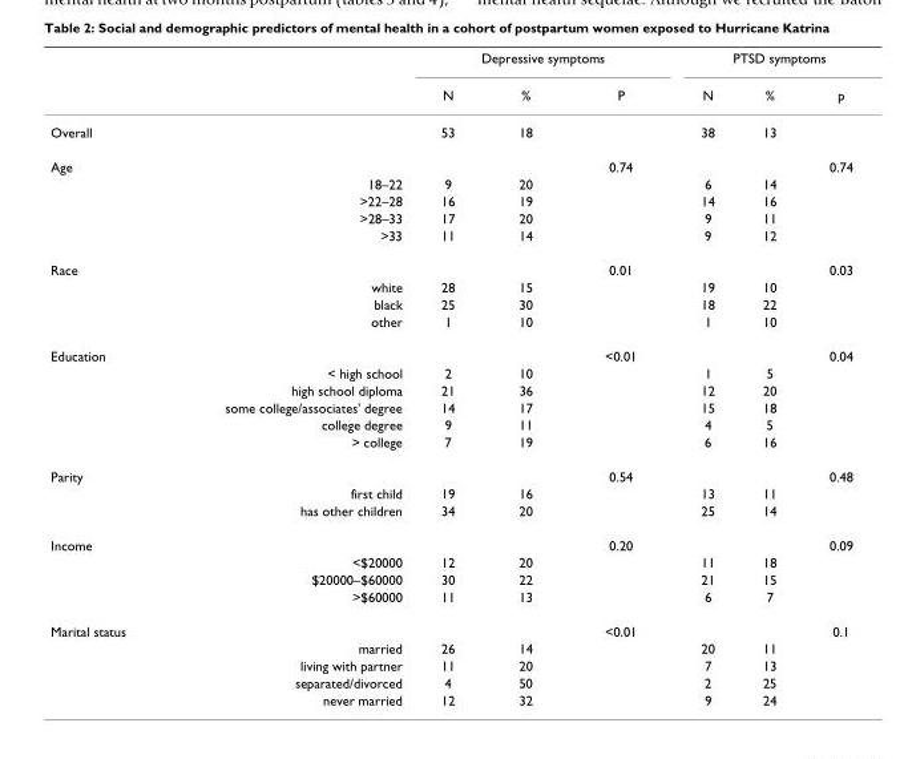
<table><thead><tr><td rowspan="2"></td><td colspan="3">Depressive symptoms</td><td colspan="3">PTSD symptoms</td></tr><tr><td>N</td><td>%</td><td>P</td><td>N</td><td>%</td><td>p</td></tr></thead><tbody><tr><td>Overall</td><td>53</td><td>18</td><td></td><td>38</td><td>13</td><td></td></tr><tr><td>Age</td><td></td><td></td><td>0.74</td><td></td><td></td><td>0.74</td></tr><tr><td>18–22</td><td>9</td><td>20</td><td></td><td>6</td><td>14</td><td></td></tr><tr><td>&gt;22–28</td><td>16</td><td>19</td><td></td><td>14</td><td>16</td><td></td></tr><tr><td>&gt;28–33</td><td>17</td><td>20</td><td></td><td>9</td><td>11</td><td></td></tr><tr><td>&gt;33</td><td>11</td><td>14</td><td></td><td>9</td><td>12</td><td></td></tr><tr><td>Race</td><td></td><td></td><td>0.01</td><td></td><td></td><td>0.03</td></tr><tr><td>white</td><td>28</td><td>15</td><td></td><td>19</td><td>10</td><td></td></tr><tr><td>black</td><td>25</td><td>30</td><td></td><td>18</td><td>22</td><td></td></tr><tr><td>other</td><td>1</td><td>10</td><td></td><td>1</td><td>10</td><td></td></tr><tr><td>Education</td><td></td><td></td><td>&lt;0.01</td><td></td><td></td><td>0.04</td></tr><tr><td>&lt; high school</td><td>2</td><td>10</td><td></td><td>1</td><td>5</td><td></td></tr><tr><td>high school diploma</td><td>21</td><td>36</td><td></td><td>12</td><td>20</td><td></td></tr><tr><td>some college/associates&#x27; degree</td><td>14</td><td>17</td><td></td><td>15</td><td>18</td><td></td></tr><tr><td>college degree</td><td>9</td><td>11</td><td></td><td>4</td><td>5</td><td></td></tr><tr><td>&gt; college</td><td>7</td><td>19</td><td></td><td>6</td><td>16</td><td></td></tr><tr><td>Parity</td><td></td><td></td><td>0.54</td><td></td><td></td><td>0.48</td></tr><tr><td>first child</td><td>19</td><td>16</td><td></td><td>13</td><td>11</td><td></td></tr><tr><td>has other children</td><td>34</td><td>20</td><td></td><td>25</td><td>14</td><td></td></tr><tr><td>Income</td><td></td><td></td><td>0.20</td><td></td><td></td><td>0.09</td></tr><tr><td>&lt;$20000</td><td>12</td><td>20</td><td></td><td>11</td><td>18</td><td></td></tr><tr><td>$20000–$60000</td><td>30</td><td>22</td><td></td><td>21</td><td>15</td><td></td></tr><tr><td>&gt;$60000</td><td>11</td><td>13</td><td></td><td>6</td><td>7</td><td></td></tr><tr><td>Marital status</td><td></td><td></td><td>&lt;0.01</td><td></td><td></td><td>0.1</td></tr><tr><td>married</td><td>26</td><td>14</td><td></td><td>20</td><td>11</td><td></td></tr><tr><td>living with partner</td><td>11</td><td>20</td><td></td><td>7</td><td>13</td><td></td></tr><tr><td>separated/divorced</td><td>4</td><td>50</td><td></td><td>2</td><td>25</td><td></td></tr><tr><td>never married</td><td>12</td><td>32</td><td></td><td>9</td><td>24</td><td></td></tr></tbody></table>